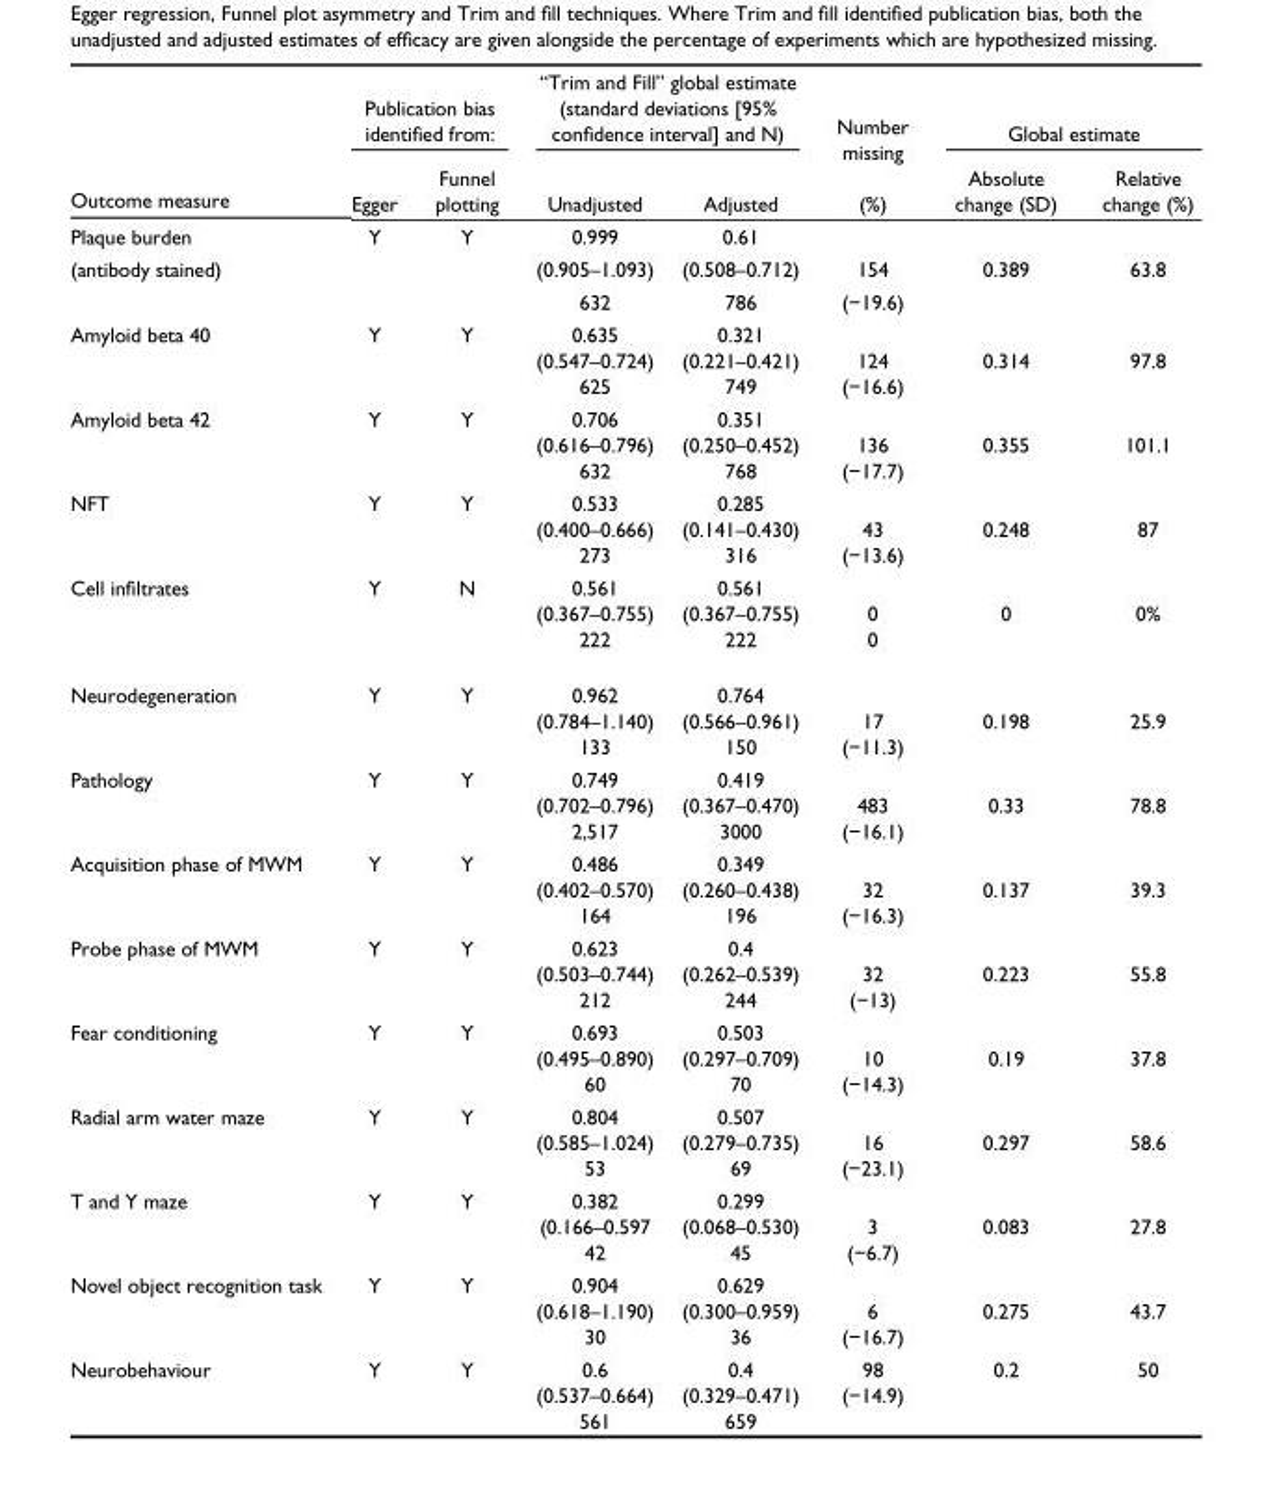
<table><thead><tr><td rowspan="2">Outcome measure</td><td colspan="2">Publication bias identified from:</td><td colspan="2">“Trim and Fill” global estimate (standard deviations [95% confidence interval] and N)</td><td rowspan="2">Number missing (%)</td><td colspan="2">Global estimate</td></tr><tr><td>Egger</td><td>Funnel plotting</td><td>Unadjusted</td><td>Adjusted</td><td>Absolute change (SD)</td><td>Relative change (%)</td></tr></thead><tbody><tr><td>Plaque burden</td><td rowspan="3">Y</td><td rowspan="3">Y</td><td>0.999</td><td>0.61</td><td></td><td></td><td></td></tr><tr><td rowspan="2">(antibody stained)</td><td>(0.905–1.093)</td><td>(0.508–0.712)</td><td>154</td><td>0.389</td><td>63.8</td></tr><tr><td>632</td><td>786</td><td>(−19.6)</td><td></td><td></td></tr><tr><td rowspan="3">Amyloid beta 40</td><td rowspan="3">Y</td><td rowspan="3">Y</td><td>0.635</td><td>0.321</td><td></td><td></td><td></td></tr><tr><td>(0.547–0.724)</td><td>(0.221–0.421)</td><td>124</td><td>0.314</td><td>97.8</td></tr><tr><td>625</td><td>749</td><td>(−16.6)</td><td></td><td></td></tr><tr><td rowspan="3">Amyloid beta 42</td><td rowspan="3">Y</td><td rowspan="3">Y</td><td>0.706</td><td>0.351</td><td></td><td></td><td></td></tr><tr><td>(0.616–0.796)</td><td>(0.250–0.452)</td><td>136</td><td>0.355</td><td>101.1</td></tr><tr><td>632</td><td>768</td><td>(−17.7)</td><td></td><td></td></tr><tr><td rowspan="3">NFT</td><td rowspan="3">Y</td><td rowspan="3">Y</td><td>0.533</td><td>0.285</td><td></td><td></td><td></td></tr><tr><td>(0.400–0.666)</td><td>(0.141–0.430)</td><td>43</td><td>0.248</td><td>87</td></tr><tr><td>273</td><td>316</td><td>(−13.6)</td><td></td><td></td></tr><tr><td rowspan="3">Cell infiltrates</td><td rowspan="3">Y</td><td rowspan="3">N</td><td>0.561</td><td>0.561</td><td></td><td></td><td></td></tr><tr><td>(0.367–0.755)</td><td>(0.367–0.755)</td><td>0</td><td>0</td><td>0%</td></tr><tr><td>222</td><td>222</td><td>0</td><td></td><td></td></tr><tr><td rowspan="3">Neurodegeneration</td><td rowspan="3">Y</td><td rowspan="3">Y</td><td>0.962</td><td>0.764</td><td></td><td></td><td></td></tr><tr><td>(0.784–1.140)</td><td>(0.566–0.961)</td><td>17</td><td>0.198</td><td>25.9</td></tr><tr><td>133</td><td>150</td><td>(−11.3)</td><td></td><td></td></tr><tr><td rowspan="3">Pathology</td><td rowspan="3">Y</td><td rowspan="3">Y</td><td>0.749</td><td>0.419</td><td></td><td rowspan="3">0.33</td><td rowspan="3">78.8</td></tr><tr><td>(0.702–0.796)</td><td>(0.367–0.470)</td><td>483</td></tr><tr><td>2,517</td><td>3000</td><td>(−16.1)</td></tr><tr><td rowspan="3">Acquisition phase of MWM</td><td>Y</td><td>Y</td><td>0.486</td><td>0.349</td><td></td><td></td><td></td></tr><tr><td></td><td></td><td>(0.402–0.570)</td><td>(0.260–0.438)</td><td>32</td><td>0.137</td><td>39.3</td></tr><tr><td></td><td></td><td>164</td><td>196</td><td>(−16.3)</td><td></td><td></td></tr><tr><td rowspan="3">Probe phase of MWM</td><td>Y</td><td>Y</td><td>0.623</td><td>0.4</td><td></td><td rowspan="3">0.223</td><td></td></tr><tr><td></td><td></td><td>(0.503–0.744)</td><td>(0.262–0.539)</td><td>32</td><td>55.8</td></tr><tr><td></td><td></td><td>212</td><td>244</td><td>(−13)</td><td></td></tr><tr><td rowspan="3">Fear conditioning</td><td>Y</td><td>Y</td><td>0.693</td><td>0.503</td><td></td><td></td><td></td></tr><tr><td></td><td></td><td>(0.495–0.890)</td><td>(0.297–0.709)</td><td>10</td><td>0.19</td><td>37.8</td></tr><tr><td></td><td></td><td>60</td><td>70</td><td>(−14.3)</td><td></td><td></td></tr><tr><td rowspan="3">Radial arm water maze</td><td rowspan="3">Y</td><td rowspan="3">Y</td><td>0.804</td><td>0.507</td><td></td><td></td><td></td></tr><tr><td>(0.585–1.024)</td><td>(0.279–0.735)</td><td>16</td><td>0.297</td><td>58.6</td></tr><tr><td>53</td><td>69</td><td>(−23.1)</td><td></td><td></td></tr><tr><td rowspan="3">T and Y maze</td><td>Y</td><td>Y</td><td>0.382</td><td>0.299</td><td></td><td></td><td></td></tr><tr><td></td><td></td><td>(0.166–0.597</td><td>(0.068–0.530)</td><td>3</td><td>0.083</td><td>27.8</td></tr><tr><td></td><td></td><td>42</td><td>45</td><td>(−6.7)</td><td></td><td></td></tr><tr><td rowspan="3">Novel object recognition task</td><td>Y</td><td>Y</td><td>0.904</td><td>0.629</td><td></td><td></td><td></td></tr><tr><td></td><td></td><td>(0.618–1.190)</td><td>(0.300–0.959)</td><td>6</td><td>0.275</td><td>43.7</td></tr><tr><td></td><td></td><td>30</td><td>36</td><td>(−16.7)</td><td></td><td></td></tr><tr><td rowspan="3">Neurobehaviour</td><td>Y</td><td rowspan="3">Y</td><td>0.6</td><td>0.4</td><td>98</td><td rowspan="3">0.2</td><td rowspan="3">50</td></tr><tr><td></td><td>(0.537–0.664)</td><td>(0.329–0.471)</td><td>(−14.9)</td></tr><tr><td></td><td>561</td><td>659</td><td></td></tr></tbody></table>